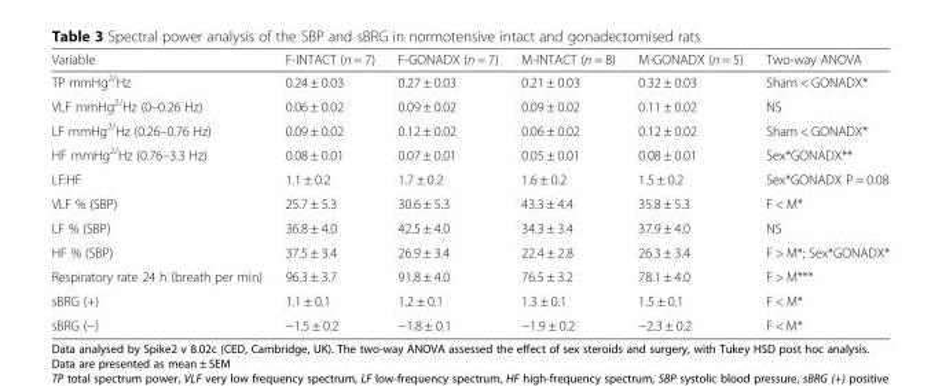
<table><thead><tr><td>Variable</td><td>F-INTACT (n = 7)</td><td>F-GONADX (n = 7)</td><td>M-INTACT (n = 8)</td><td>M-GONADX (n = 5)</td><td>Two-way ANOVA</td></tr></thead><tbody><tr><td>TP mmHg<sup>2/</sup>Hz</td><td>0.24 ± 0.03</td><td>0.27 ± 0.03</td><td>0.21 ± 0.03</td><td>0.32 ± 0.03</td><td>Sham &lt; GONADX*</td></tr><tr><td>VLF mmHg<sup>2/</sup>Hz (0–0.26 Hz)</td><td>0.06 ± 0.02</td><td>0.09 ± 0.02</td><td>0.09 ± 0.02</td><td>0.11 ± 0.02</td><td>NS</td></tr><tr><td>LF mmHg<sup>2/</sup>Hz (0.26–0.76 Hz)</td><td>0.09 ± 0.02</td><td>0.12 ± 0.02</td><td>0.06 ± 0.02</td><td>0.12 ± 0.02</td><td>Sham &lt; GONADX*</td></tr><tr><td>HF mmHg<sup>2/</sup>Hz (0.76–3.3 Hz)</td><td>0.08 ± 0.01</td><td>0.07 ± 0.01</td><td>0.05 ± 0.01</td><td>0.08 ± 0.01</td><td>Sex*GONADX**</td></tr><tr><td>LF:HF</td><td>1.1 ± 0.2</td><td>1.7 ± 0.2</td><td>1.6 ± 0.2</td><td>1.5 ± 0.2</td><td>Sex*GONADX P = 0.08</td></tr><tr><td>VLF % (SBP)</td><td>25.7 ± 5.3</td><td>30.6 ± 5.3</td><td>43.3 ± 4.4</td><td>35.8 ± 5.3</td><td>F &lt; M*</td></tr><tr><td>LF % (SBP)</td><td>36.8 ± 4.0</td><td>42.5 ± 4.0</td><td>34.3 ± 3.4</td><td>37.9 ± 4.0</td><td>NS</td></tr><tr><td>HF % (SBP)</td><td>37.5 ± 3.4</td><td>26.9 ± 3.4</td><td>22.4 ± 2.8</td><td>26.3 ± 3.4</td><td>F &gt; M*; Sex*GONADX*</td></tr><tr><td>Respiratory rate 24 h (breath per min)</td><td>96.3 ± 3.7</td><td>91.8 ± 4.0</td><td>76.5 ± 3.2</td><td>78.1 ± 4.0</td><td>F &gt; M***</td></tr><tr><td>sBRG (+)</td><td>1.1 ± 0.1</td><td>1.2 ± 0.1</td><td>1.3 ± 0.1</td><td>1.5 ± 0.1</td><td>F &lt; M*</td></tr><tr><td>sBRG (−)</td><td>−1.5 ± 0.2</td><td>−1.8 ± 0.1</td><td>−1.9 ± 0.2</td><td>−2.3 ± 0.2</td><td>F &lt; M*</td></tr></tbody></table>